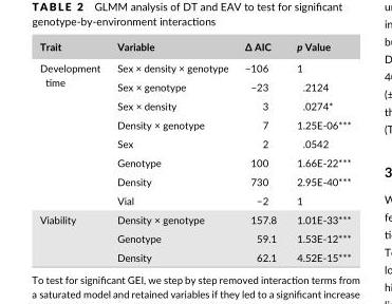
<table><thead><tr><td>Trait</td><td>Variable</td><td>Δ AIC</td><td>p Value</td></tr></thead><tbody><tr><td rowspan="8">Development time</td><td>Sex × density × genotype</td><td>−106</td><td>1</td></tr><tr><td>Sex × genotype</td><td>−23</td><td>.2124</td></tr><tr><td>Sex × density</td><td>3</td><td>.0274*</td></tr><tr><td>Density × genotype</td><td>7</td><td>1.25E- 06***</td></tr><tr><td>Sex</td><td>2</td><td>.0542</td></tr><tr><td>Genotype</td><td>100</td><td>1.66E- 22***</td></tr><tr><td>Density</td><td>730</td><td>2.95E- 40***</td></tr><tr><td>Vial</td><td>−2</td><td>1</td></tr><tr><td rowspan="3">Viability</td><td>Density × genotype</td><td>157.8</td><td>1.01E- 33***</td></tr><tr><td>Genotype</td><td>59.1</td><td>1.53E- 12***</td></tr><tr><td>Density</td><td>62.1</td><td>4.52E- 15***</td></tr></tbody></table>